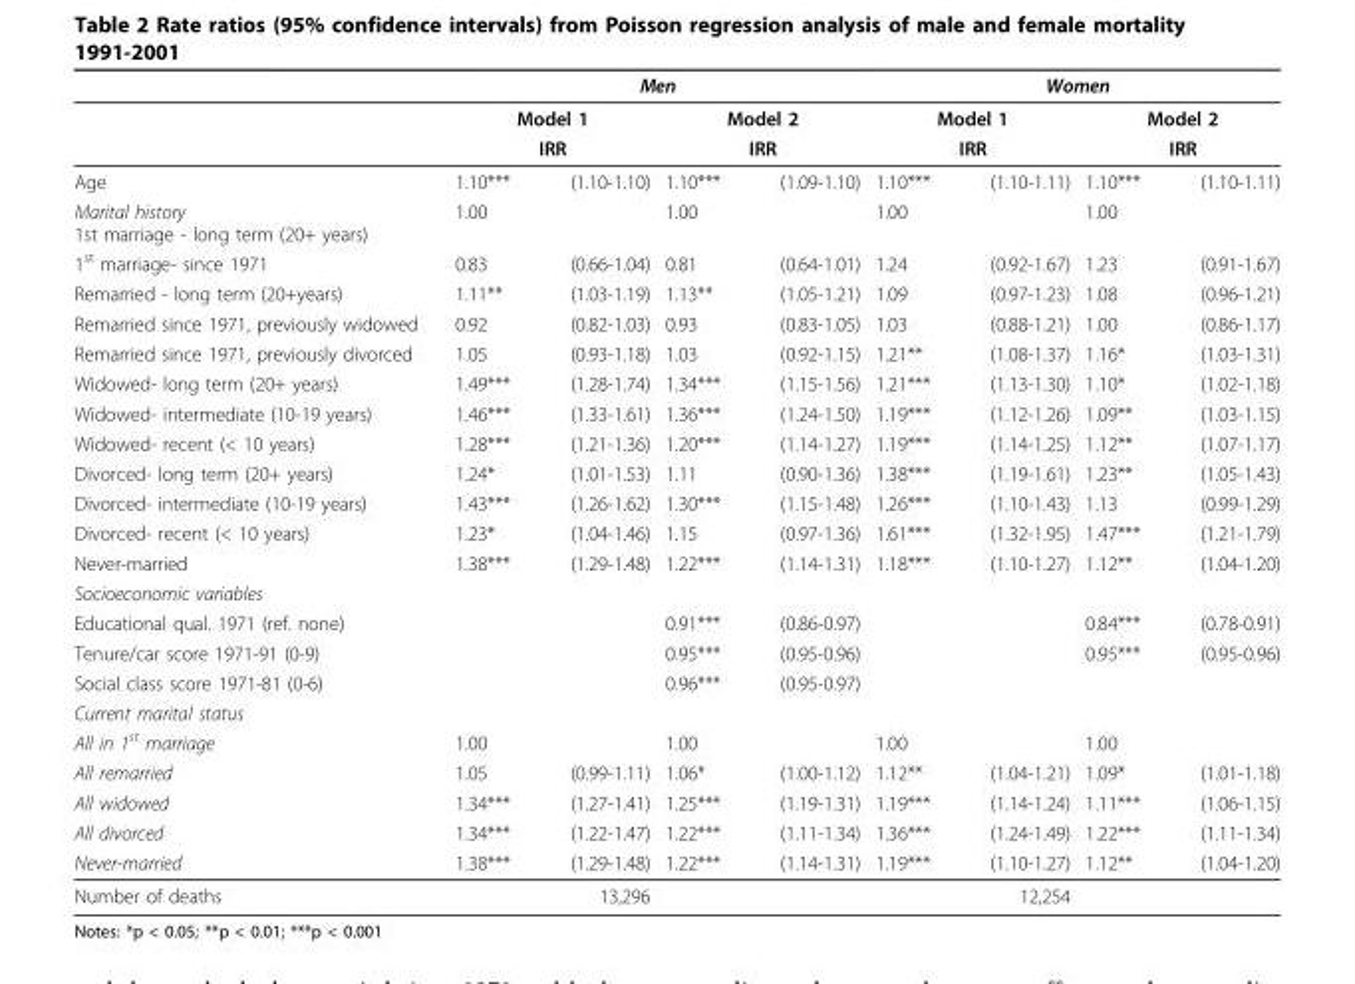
<table><thead><tr><td rowspan="4">Age</td><td colspan="4">Men</td><td colspan="4">Women</td></tr><tr><td rowspan="2" colspan="2">Model 1 IRR</td><td rowspan="2" colspan="2">Model 2 IRR</td><td rowspan="2" colspan="2">Model 1 IRR</td><td rowspan="2" colspan="2">Model 2 IRR</td></tr><tr></tr><tr><td>1.10***</td><td>(1.10-1.10)</td><td>1.10***</td><td>(1.09-1.10)</td><td>1.10***</td><td>(1.10-1.11)</td><td>1.10***</td><td>(1.10-1.11)</td></tr></thead><tbody><tr><td>Marital history 1st marriage - long term (20+ years)</td><td>1.00</td><td></td><td>1.00</td><td></td><td>1.00</td><td></td><td>1.00</td><td></td></tr><tr><td>1<sup>st</sup> marriage- since 1971</td><td>0.83</td><td>(0.66-1.04)</td><td>0.81</td><td>(0.64-1.01)</td><td>1.24</td><td>(0.92-1.67)</td><td>1.23</td><td>(0.91-1.67)</td></tr><tr><td>Remarried - long term (20+years)</td><td>1.11**</td><td>(1.03-1.19)</td><td>1.13**</td><td>(1.05-1.21)</td><td>1.09</td><td>(0.97-1.23)</td><td>1.08</td><td>(0.96-1.21)</td></tr><tr><td>Remarried since 1971, previously widowed</td><td>0.92</td><td>(0.82-1.03)</td><td>0.93</td><td>(0.83-1.05)</td><td>1.03</td><td>(0.88-1.21)</td><td>1.00</td><td>(0.86-1.17)</td></tr><tr><td>Remarried since 1971, previously divorced</td><td>1.05</td><td>(0.93-1.18)</td><td>1.03</td><td>(0.92-1.15)</td><td>1.21**</td><td>(1.08-1.37)</td><td>1.16*</td><td>(1.03-1.31)</td></tr><tr><td>Widowed- long term (20+ years)</td><td>1.49***</td><td>(1.28-1.74)</td><td>1.34***</td><td>(1.15-1.56)</td><td>1.21***</td><td>(1.13-1.30)</td><td>1.10*</td><td>(1.02-1.18)</td></tr><tr><td>Widowed- intermediate (10-19 years)</td><td>1.46***</td><td>(1.33-1.61)</td><td>1.36***</td><td>(1.24-1.50)</td><td>1.19***</td><td>(1.12-1.26)</td><td>1.09**</td><td>(1.03-1.15)</td></tr><tr><td>Widowed- recent (&lt; 10 years)</td><td>1.28***</td><td>(1.21-1.36)</td><td>1.20***</td><td>(1.14-1.27)</td><td>1.19***</td><td>(1.14-1.25)</td><td>1.12**</td><td>(1.07-1.17)</td></tr><tr><td>Divorced- long term (20+ years)</td><td>1.24*</td><td>(1.01-1.53)</td><td>1.11</td><td>(0.90-1.36)</td><td>1.38***</td><td>(1.19-1.61)</td><td>1.23**</td><td>(1.05-1.43)</td></tr><tr><td>Divorced- intermediate (10-19 years)</td><td>1.43***</td><td>(1.26-1.62)</td><td>1.30***</td><td>(1.15-1.48)</td><td>1.26***</td><td>(1.10-1.43)</td><td>1.13</td><td>(0.99-1.29)</td></tr><tr><td>Divorced- recent (&lt; 10 years)</td><td>1.23*</td><td>(1.04-1.46)</td><td>1.15</td><td>(0.97-1.36)</td><td>1.61***</td><td>(1.32-1.95)</td><td>1.47***</td><td>(1.21-1.79)</td></tr><tr><td>Never-married</td><td>1.38***</td><td>(1.29-1.48)</td><td>1.22***</td><td>(1.14-1.31)</td><td>1.18***</td><td>(1.10-1.27)</td><td>1.12**</td><td>(1.04-1.20)</td></tr><tr><td colspan="9">Socioeconomic variables</td></tr><tr><td>Educational qual. 1971 (ref. none)</td><td></td><td></td><td>0.91***</td><td>(0.86-0.97)</td><td></td><td></td><td>0.84***</td><td>(0.78-0.91)</td></tr><tr><td>Tenure/car score 1971-91 (0-9)</td><td></td><td></td><td>0.95***</td><td>(0.95-0.96)</td><td></td><td></td><td>0.95***</td><td>(0.95-0.96)</td></tr><tr><td>Social class score 1971-81 (0-6)</td><td></td><td></td><td>0.96***</td><td>(0.95-0.97)</td><td></td><td></td><td></td><td></td></tr><tr><td colspan="9">Current marital status</td></tr><tr><td>All in 1<sup>st</sup> marriage</td><td>1.00</td><td></td><td>1.00</td><td></td><td>1.00</td><td></td><td>1.00</td><td></td></tr><tr><td>All remarried</td><td>1.05</td><td>(0.99-1.11)</td><td>1.06*</td><td>(1.00-1.12)</td><td>1.12**</td><td>(1.04-1.21)</td><td>1.09*</td><td>(1.01-1.18)</td></tr><tr><td>All widowed</td><td>1.34***</td><td>(1.27-1.41)</td><td>1.25***</td><td>(1.19-1.31)</td><td>1.19***</td><td>(1.14-1.24)</td><td>1.11***</td><td>(1.06-1.15)</td></tr><tr><td>All divorced</td><td>1.34***</td><td>(1.22-1.47)</td><td>1.22***</td><td>(1.11-1.34)</td><td>1.36***</td><td>(1.24-1.49)</td><td>1.22***</td><td>(1.11-1.34)</td></tr><tr><td>Never-married</td><td>1.38***</td><td>(1.29-1.48)</td><td>1.22***</td><td>(1.14-1.31)</td><td>1.19***</td><td>(1.10-1.27)</td><td>1.12**</td><td>(1.04-1.20)</td></tr><tr><td>Number of deaths</td><td colspan="2">13,296</td><td></td><td></td><td colspan="2">12,254</td><td></td><td></td></tr></tbody></table>